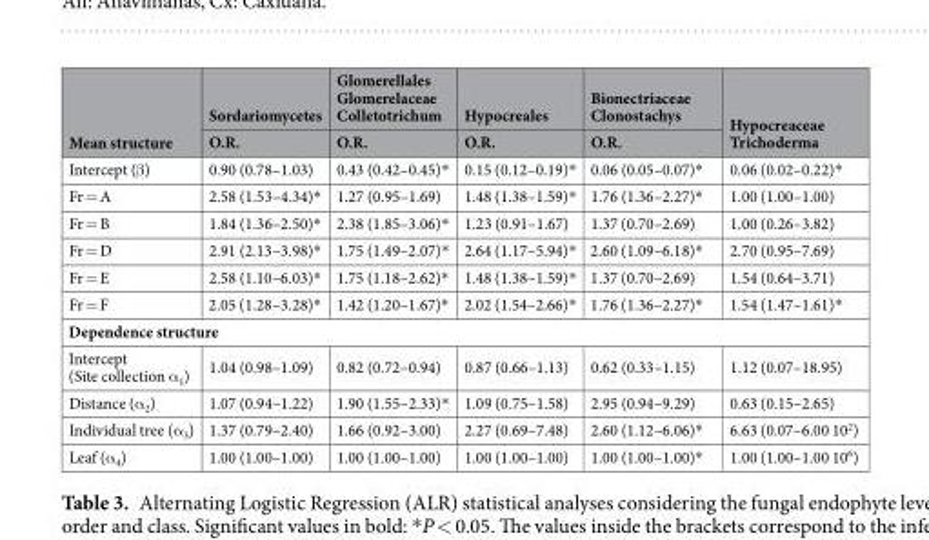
<table><thead><tr><td rowspan="2">Mean structure</td><td rowspan="2">Sordariomycetes O.R.</td><td rowspan="2">Glomerellales Glomerelaceae Colletotrichum O.R.</td><td rowspan="2">Hypocreales O.R.</td><td rowspan="2">Bionectriaceae Clonostachys O.R.</td><td rowspan="2">Hypocreaceae Trichoderma</td></tr><tr></tr></thead><tbody><tr><td>Intercept (β)</td><td>0.90 (0.78–1.03)</td><td>0.43 (0.42–0.45)*</td><td>0.15 (0.12–0.19)*</td><td>0.06 (0.05–0.07)*</td><td>0.06 (0.02–0.22)*</td></tr><tr><td>Fr = A</td><td>2.58 (1.53–4.34)*</td><td>1.27 (0.95–1.69)</td><td>1.48 (1.38–1.59)*</td><td>1.76 (1.36–2.27)*</td><td>1.00 (1.00–1.00)</td></tr><tr><td>Fr = B</td><td>1.84 (1.36–2.50)*</td><td>2.38 (1.85–3.06)*</td><td>1.23 (0.91–1.67)</td><td>1.37 (0.70–2.69)</td><td>1.00 (0.26–3.82)</td></tr><tr><td>Fr = D</td><td>2.91 (2.13–3.98)*</td><td>1.75 (1.49–2.07)*</td><td>2.64 (1.17–5.94)*</td><td>2.60 (1.09–6.18)*</td><td>2.70 (0.95–7.69)</td></tr><tr><td>Fr = E</td><td>2.58 (1.10–6.03)*</td><td>1.75 (1.18–2.62)*</td><td>1.48 (1.38–1.59)*</td><td>1.37 (0.70–2.69)</td><td>1.54 (0.64–3.71)</td></tr><tr><td>Fr = F</td><td>2.05 (1.28–3.28)*</td><td>1.42 (1.20–1.67)*</td><td>2.02 (1.54–2.66)*</td><td>1.76 (1.36–2.27)*</td><td>1.54 (1.47–1.61)*</td></tr><tr><td colspan="6">Dependence structure</td></tr><tr><td>Intercept (Site collection α<sub>1</sub>)</td><td>1.04 (0.98–1.09)</td><td>0.82 (0.72–0.94)</td><td>0.87 (0.66–1.13)</td><td>0.62 (0.33–1.15)</td><td>1.12 (0.07–18.95)</td></tr><tr><td>Distance (α<sub>2</sub>)</td><td>1.07 (0.94–1.22)</td><td>1.90 (1.55–2.33)*</td><td>1.09 (0.75–1.58)</td><td>2.95 (0.94–9.29)</td><td>0.63 (0.15–2.65)</td></tr><tr><td>Individual tree (α<sub>3</sub>)</td><td>1.37 (0.79–2.40)</td><td>1.66 (0.92–3.00)</td><td>2.27 (0.69–7.48)</td><td>2.60 (1.12–6.06)*</td><td>6.63 (0.07–6.00 10<sup>2</sup>)</td></tr><tr><td>Leaf (α<sub>4</sub>)</td><td>1.00 (1.00–1.00)</td><td>1.00 (1.00–1.00)</td><td>1.00 (1.00–1.00)</td><td>1.00 (1.00–1.00)*</td><td>1.00 (1.00–1.00 10<sup>6</sup>)</td></tr></tbody></table>